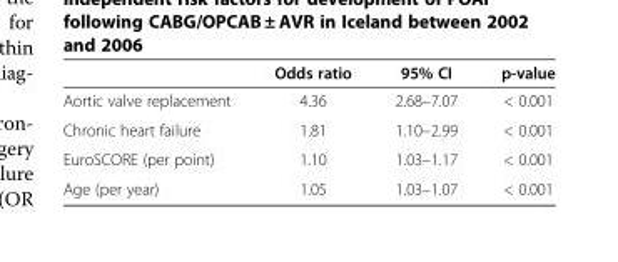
<table><thead><tr><td></td><td>Odds ratio</td><td>95% CI</td><td>p-value</td></tr></thead><tbody><tr><td>Aortic valve replacement</td><td>4.36</td><td>2.68–7.07</td><td>&lt; 0.001</td></tr><tr><td>Chronic heart failure</td><td>1.81</td><td>1.10–2.99</td><td>&lt; 0.001</td></tr><tr><td>EuroSCORE (per point)</td><td>1.10</td><td>1.03–1.17</td><td>&lt; 0.001</td></tr><tr><td>Age (per year)</td><td>1.05</td><td>1.03–1.07</td><td>&lt; 0.001</td></tr></tbody></table>